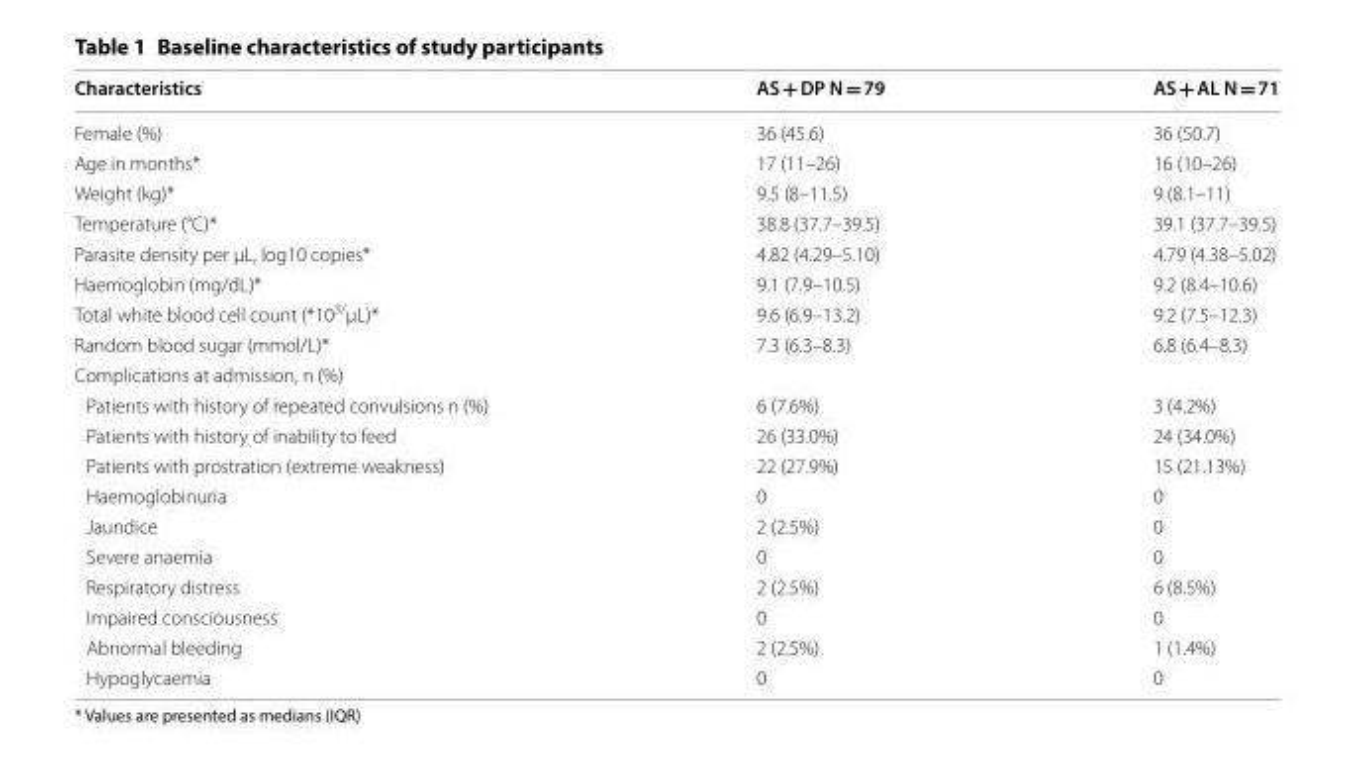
<table><thead><tr><td>Characteristics</td><td>AS + DP N = 79</td><td>AS + AL N = 71</td></tr></thead><tbody><tr><td>Female (%)</td><td>36 (45.6)</td><td>36 (50.7)</td></tr><tr><td>Age in months*</td><td>17 (11–26)</td><td>16 (10–26)</td></tr><tr><td>Weight (kg)*</td><td>9.5 (8–11.5)</td><td>9 (8.1–11)</td></tr><tr><td>Temperature (°C)*</td><td>38.8 (37.7–39.5)</td><td>39.1 (37.7–39.5)</td></tr><tr><td>Parasite density per μL, log10 copies*</td><td>4.82 (4.29–5.10)</td><td>4.79 (4.38–5.02)</td></tr><tr><td>Haemoglobin (mg/dL)*</td><td>9.1 (7.9–10.5)</td><td>9.2 (8.4–10.6)</td></tr><tr><td>Total white blood cell count (*10<sup>3/</sup>μL)*</td><td>9.6 (6.9–13.2)</td><td>9.2 (7.5–12.3)</td></tr><tr><td>Random blood sugar (mmol/L)*</td><td>7.3 (6.3–8.3)</td><td>6.8 (6.4–8.3)</td></tr><tr><td colspan="3">Complications at admission, n (%)</td></tr><tr><td>Patients with history of repeated convulsions n (%)</td><td>6 (7.6%)</td><td>3 (4.2%)</td></tr><tr><td>Patients with history of inability to feed</td><td>26 (33.0%)</td><td>24 (34.0%)</td></tr><tr><td>Patients with prostration (extreme weakness)</td><td>22 (27.9%)</td><td>15 (21.13%)</td></tr><tr><td>Haemoglobinuria</td><td>0</td><td>0</td></tr><tr><td>Jaundice</td><td>2 (2.5%)</td><td>0</td></tr><tr><td>Severe anaemia</td><td>0</td><td>0</td></tr><tr><td>Respiratory distress</td><td>2 (2.5%)</td><td>6 (8.5%)</td></tr><tr><td>Impaired consciousness</td><td>0</td><td>0</td></tr><tr><td>Abnormal bleeding</td><td>2 (2.5%)</td><td>1 (1.4%)</td></tr><tr><td>Hypoglycaemia</td><td>0</td><td>0</td></tr></tbody></table>